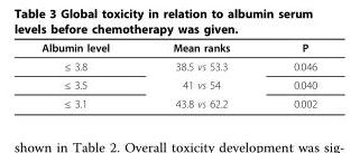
<table><thead><tr><td>Albumin level</td><td>Mean ranks</td><td>P</td></tr></thead><tbody><tr><td>≤ 3.8</td><td>38.5 vs 53.3</td><td>0.046</td></tr><tr><td>≤ 3.5</td><td>41 vs 54</td><td>0.040</td></tr><tr><td>≤ 3.1</td><td>43.8 vs 62.2</td><td>0.002</td></tr></tbody></table>